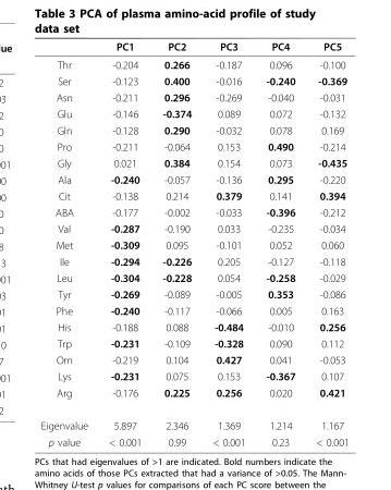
<table><thead><tr><td></td><td>PC1</td><td>PC2</td><td>PC3</td><td>PC4</td><td>PC5</td></tr></thead><tbody><tr><td>Thr</td><td>-0.204</td><td>0.266</td><td>-0.187</td><td>0.096</td><td>-0.100</td></tr><tr><td>Ser</td><td>-0.123</td><td>0.400</td><td>-0.016</td><td>-0.240</td><td>-0.369</td></tr><tr><td>Asn</td><td>-0.211</td><td>0.296</td><td>-0.269</td><td>-0.040</td><td>-0.031</td></tr><tr><td>Glu</td><td>-0.146</td><td>-0.374</td><td>0.089</td><td>0.072</td><td>-0.132</td></tr><tr><td>Gln</td><td>-0.128</td><td>0.290</td><td>-0.032</td><td>0.078</td><td>0.169</td></tr><tr><td>Pro</td><td>-0.211</td><td>-0.064</td><td>0.153</td><td>0.490</td><td>-0.214</td></tr><tr><td>Gly</td><td>0.021</td><td>0.384</td><td>0.154</td><td>0.073</td><td>-0.435</td></tr><tr><td>Ala</td><td>-0.240</td><td>-0.057</td><td>-0.136</td><td>0.295</td><td>-0.220</td></tr><tr><td>Cit</td><td>-0.138</td><td>0.214</td><td>0.379</td><td>0.141</td><td>0.394</td></tr><tr><td>ABA</td><td>-0.177</td><td>-0.002</td><td>-0.033</td><td>-0.396</td><td>-0.212</td></tr><tr><td>Val</td><td>-0.287</td><td>-0.190</td><td>0.033</td><td>-0.235</td><td>-0.034</td></tr><tr><td>Met</td><td>-0.309</td><td>0.095</td><td>-0.101</td><td>0.052</td><td>0.060</td></tr><tr><td>Ile</td><td>-0.294</td><td>-0.226</td><td>0.205</td><td>-0.127</td><td>-0.118</td></tr><tr><td>Leu</td><td>-0.304</td><td>-0.228</td><td>0.054</td><td>-0.258</td><td>-0.029</td></tr><tr><td>Tyr</td><td>-0.269</td><td>-0.089</td><td>-0.005</td><td>0.353</td><td>-0.086</td></tr><tr><td>Phe</td><td>-0.240</td><td>-0.117</td><td>-0.066</td><td>0.005</td><td>0.163</td></tr><tr><td>His</td><td>-0.188</td><td>0.088</td><td>-0.484</td><td>-0.010</td><td>0.256</td></tr><tr><td>Trp</td><td>-0.231</td><td>-0.109</td><td>-0.328</td><td>0.090</td><td>0.112</td></tr><tr><td>Orn</td><td>-0.219</td><td>0.104</td><td>0.427</td><td>0.041</td><td>-0.053</td></tr><tr><td>Lys</td><td>-0.231</td><td>0.075</td><td>0.153</td><td>-0.367</td><td>0.107</td></tr><tr><td>Arg</td><td>-0.176</td><td>0.225</td><td>0.256</td><td>0.020</td><td>0.421</td></tr><tr><td>Eigenvalue</td><td>5.897</td><td>2.346</td><td>1.369</td><td>1.214</td><td>1.167</td></tr><tr><td>p value</td><td>&lt; 0.001</td><td>0.99</td><td>&lt; 0.001</td><td>0.23</td><td>&lt; 0.001</td></tr></tbody></table>